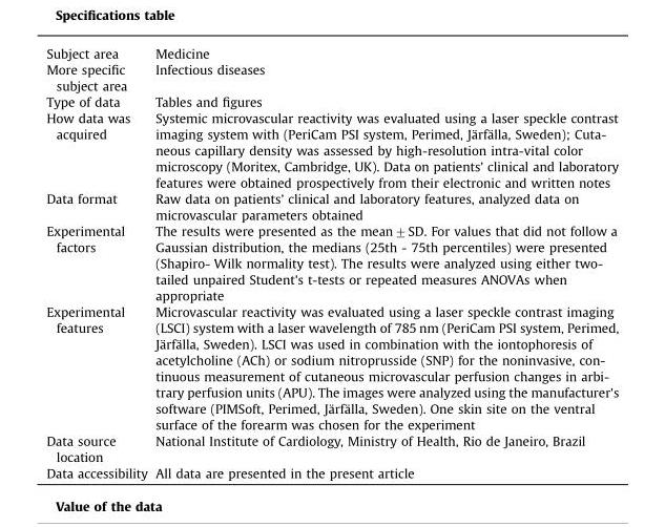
<table><tbody><tr><td>Subject area</td><td>Medicine</td></tr><tr><td>More specific subject area</td><td>Infectious diseases</td></tr><tr><td>Type of data</td><td>Tables and figures</td></tr><tr><td>How data was acquired</td><td>Systemic microvascular reactivity was evaluated using a laser speckle contrast imaging system with (PeriCam PSI system, Perimed, Järfälla, Sweden); Cuta- neous capillary density was assessed by high-resolution intra-vital color microscopy (Moritex, Cambridge, UK). Data on patients’ clinical and laboratory features were obtained prospectively from their electronic and written notes</td></tr><tr><td>Data format</td><td>Raw data on patients’ clinical and laboratory features, analyzed data on microvascular parameters obtained</td></tr><tr><td>Experimental factors</td><td>The results were presented as the mean±SD. For values that did not follow a Gaussian distribution, the medians (25th - 75th percentiles) were presented (Shapiro- Wilk normality test). The results were analyzed using either two- tailed unpaired Student&#x27;s t-tests or repeated measures ANOVAs when appropriate</td></tr><tr><td>Experimental features</td><td>Microvascular reactivity was evaluated using a laser speckle contrast imaging (LSCI) system with a laser wavelength of 785 nm (PeriCam PSI system, Perimed, Järfälla, Sweden). LSCI was used in combination with the iontophoresis of acetylcholine (ACh) or sodium nitroprusside (SNP) for the noninvasive, con- tinuous measurement of cutaneous microvascular perfusion changes in arbi- trary perfusion units (APU). The images were analyzed using the manufacturer&#x27;s software (PIMSoft, Perimed, Järfälla, Sweden). One skin site on the ventral surface of the forearm was chosen for the experiment</td></tr><tr><td>Data source location</td><td>National Institute of Cardiology, Ministry of Health, Rio de Janeiro, Brazil</td></tr><tr><td>Data accessibility</td><td>All data are presented in the present article</td></tr></tbody></table>